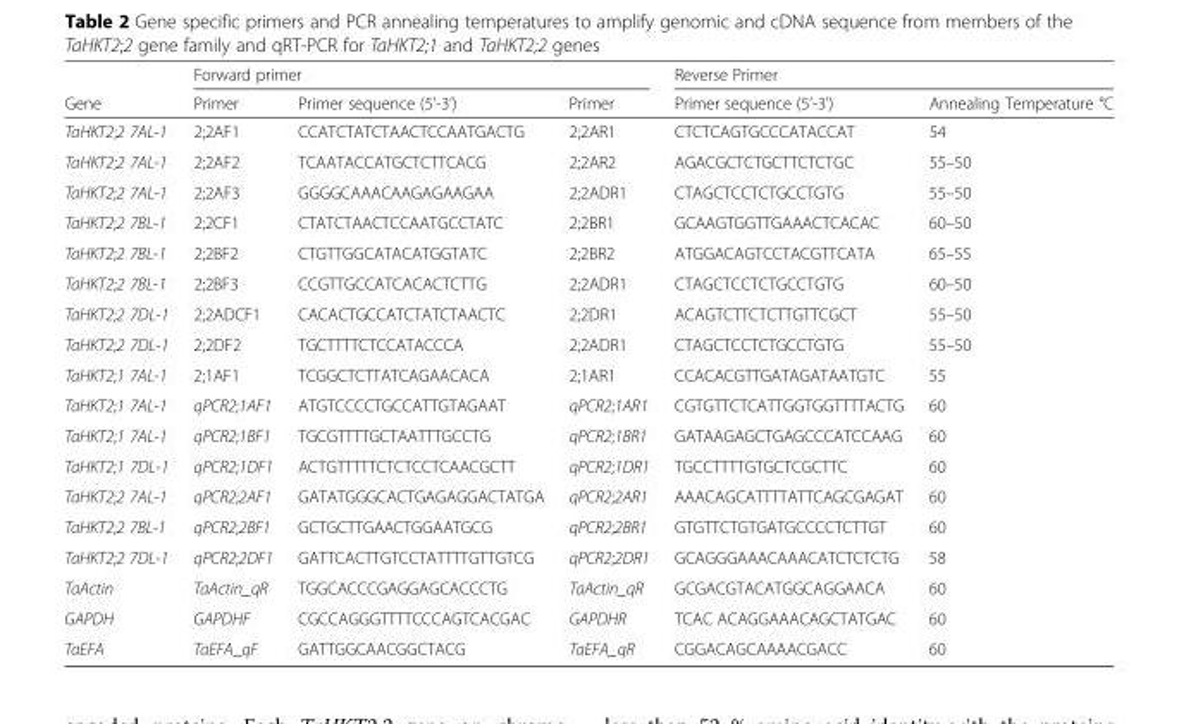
<table><thead><tr><td rowspan="2">Gene</td><td colspan="3">Forward primer</td><td colspan="2">Reverse Primer</td></tr><tr><td>Primer</td><td>Primer sequence (5’-3’)</td><td>Primer</td><td>Primer sequence (5’-3’)</td><td>Annealing Temperature °C</td></tr></thead><tbody><tr><td>TaHKT2;2 7AL-1</td><td>2;2AF1</td><td>CCATCTATCTAACTCCAATGACTG</td><td>2;2AR1</td><td>CTCTCAGTGCCCATACCAT</td><td>54</td></tr><tr><td>TaHKT2;2 7AL-1</td><td>2;2AF2</td><td>TCAATACCATGCTCTTCACG</td><td>2;2AR2</td><td>AGACGCTCTGCTTCTCTGC</td><td>55–50</td></tr><tr><td>TaHKT2;2 7AL-1</td><td>2;2AF3</td><td>GGGGCAAACAAGAGAAGAA</td><td>2;2ADR1</td><td>CTAGCTCCTCTGCCTGTG</td><td>55–50</td></tr><tr><td>TaHKT2;2 7BL-1</td><td>2;2CF1</td><td>CTATCTAACTCCAATGCCTATC</td><td>2;2BR1</td><td>GCAAGTGGTTGAAACTCACAC</td><td>60–50</td></tr><tr><td>TaHKT2;2 7BL-1</td><td>2;2BF2</td><td>CTGTTGGCATACATGGTATC</td><td>2;2BR2</td><td>ATGGACAGTCCTACGTTCATA</td><td>65–55</td></tr><tr><td>TaHKT2;2 7BL-1</td><td>2;2BF3</td><td>CCGTTGCCATCACACTCTTG</td><td>2;2ADR1</td><td>CTAGCTCCTCTGCCTGTG</td><td>60–50</td></tr><tr><td>TaHKT2;2 7DL-1</td><td>2;2ADCF1</td><td>CACACTGCCATCTATCTAACTC</td><td>2;2DR1</td><td>ACAGTCTTCTCTTGTTCGCT</td><td>55–50</td></tr><tr><td>TaHKT2;2 7DL-1</td><td>2;2DF2</td><td>TGCTTTTCTCCATACCCA</td><td>2;2ADR1</td><td>CTAGCTCCTCTGCCTGTG</td><td>55–50</td></tr><tr><td>TaHKT2;1 7AL-1</td><td>2;1AF1</td><td>TCGGCTCTTATCAGAACACA</td><td>2;1AR1</td><td>CCACACGTTGATAGATAATGTC</td><td>55</td></tr><tr><td>TaHKT2;1 7AL-1</td><td>qPCR2;1AF1</td><td>ATGTCCCCTGCCATTGTAGAAT</td><td>qPCR2;1AR1</td><td>CGTGTTCTCATTGGTGGTTTTACTG</td><td>60</td></tr><tr><td>TaHKT2;1 7AL-1</td><td>qPCR2;1BF1</td><td>TGCGTTTTGCTAATTTGCCTG</td><td>qPCR2;1BR1</td><td>GATAAGAGCTGAGCCCATCCAAG</td><td>60</td></tr><tr><td>TaHKT2;1 7DL-1</td><td>qPCR2;1DF1</td><td>ACTGTTTTTCTCTCCTCAACGCTT</td><td>qPCR2;1DR1</td><td>TGCCTTTTGTGCTCGCTTC</td><td>60</td></tr><tr><td>TaHKT2;2 7AL-1</td><td>qPCR2;2AF1</td><td>GATATGGGCACTGAGAGGACTATGA</td><td>qPCR2;2AR1</td><td>AAACAGCATTTTATTCAGCGAGAT</td><td>60</td></tr><tr><td>TaHKT2;2 7BL-1</td><td>qPCR2;2BF1</td><td>GCTGCTTGAACTGGAATGCG</td><td>qPCR2;2BR1</td><td>GTGTTCTGTGATGCCCCTCTTGT</td><td>60</td></tr><tr><td>TaHKT2;2 7DL-1</td><td>qPCR2;2DF1</td><td>GATTCACTTGTCCTATTTTGTTGTCG</td><td>qPCR2;2DR1</td><td>GCAGGGAAACAAACATCTCTCTG</td><td>58</td></tr><tr><td>TaActin</td><td>TaActin_qR</td><td>TGGCACCCGAGGAGCACCCTG</td><td>TaActin_qR</td><td>GCGACGTACATGGCAGGAACA</td><td>60</td></tr><tr><td>GAPDH</td><td>GAPDHF</td><td>CGCCAGGGTTTTCCCAGTCACGAC</td><td>GAPDHR</td><td>TCAC ACAGGAAACAGCTATGAC</td><td>60</td></tr><tr><td>TaEFA</td><td>TaEFA_qF</td><td>GATTGGCAACGGCTACG</td><td>TaEFA_qR</td><td>CGGACAGCAAAACGACC</td><td>60</td></tr></tbody></table>